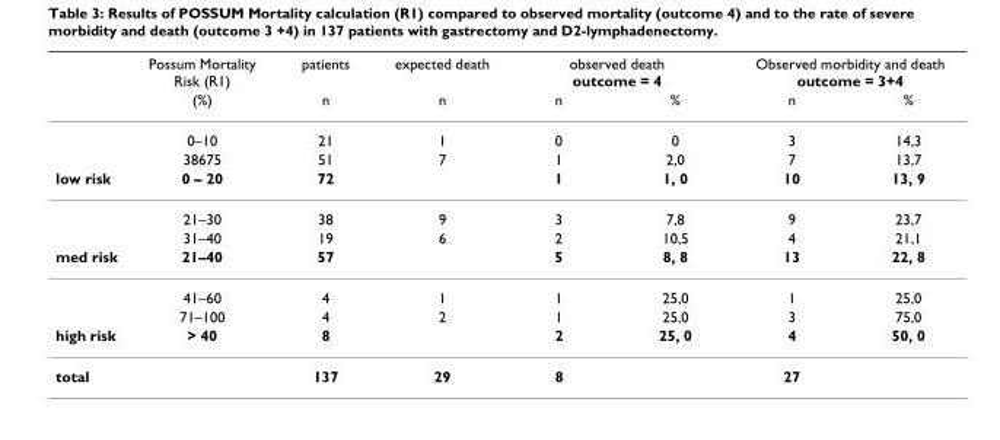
<table><thead><tr><td rowspan="2"></td><td rowspan="2">Possum Mortality Risk (R1) (%)</td><td rowspan="2">patients n</td><td rowspan="2">expected death n</td><td colspan="2">observed death outcome = 4</td><td colspan="2">Observed morbidity and death outcome = 3+4</td></tr><tr><td>n</td><td>%</td><td>n</td><td>%</td></tr></thead><tbody><tr><td></td><td>0–10</td><td>21</td><td>1</td><td>0</td><td>0</td><td>3</td><td>14,3</td></tr><tr><td></td><td>38675</td><td>51</td><td>7</td><td>1</td><td>2,0</td><td>7</td><td>13,7</td></tr><tr><td rowspan="3">low risk</td><td>0 – 20</td><td>72</td><td></td><td>1</td><td>1, 0</td><td>10</td><td>13, 9</td></tr><tr><td>21–30</td><td>38</td><td>9</td><td>3</td><td>7,8</td><td>9</td><td>23,7</td></tr><tr><td>31–40</td><td>19</td><td>6</td><td>2</td><td>10,5</td><td>4</td><td>21,1</td></tr><tr><td rowspan="3">med risk</td><td>21–40</td><td>57</td><td></td><td>5</td><td>8, 8</td><td>13</td><td>22, 8</td></tr><tr><td>41–60</td><td>4</td><td>1</td><td>1</td><td>25,0</td><td>1</td><td>25,0</td></tr><tr><td>71–100</td><td>4</td><td>2</td><td>1</td><td>25,0</td><td>3</td><td>75,0</td></tr><tr><td>high risk</td><td>&gt; 40</td><td>8</td><td></td><td>2</td><td>25, 0</td><td>4</td><td>50, 0</td></tr><tr><td>total</td><td></td><td>137</td><td>29</td><td>8</td><td></td><td>27</td><td></td></tr></tbody></table>